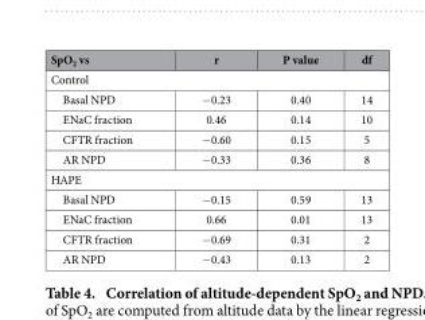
<table><thead><tr><td>SpO<sub>2</sub> vs</td><td>r</td><td>P value</td><td>df</td></tr></thead><tbody><tr><td colspan="4">Control</td></tr><tr><td>Basal NPD</td><td>− 0.23</td><td>0.40</td><td>14</td></tr><tr><td>ENaC fraction</td><td>0.46</td><td>0.14</td><td>10</td></tr><tr><td>CFTR fraction</td><td>− 0.60</td><td>0.15</td><td>5</td></tr><tr><td>AR NPD</td><td>− 0.33</td><td>0.36</td><td>8</td></tr><tr><td colspan="4">HAPE</td></tr><tr><td>Basal NPD</td><td>− 0.15</td><td>0.59</td><td>13</td></tr><tr><td>ENaC fraction</td><td>0.66</td><td>0.01</td><td>13</td></tr><tr><td>CFTR fraction</td><td>− 0.69</td><td>0.31</td><td>2</td></tr><tr><td>AR NPD</td><td>− 0.43</td><td>0.13</td><td>2</td></tr></tbody></table>